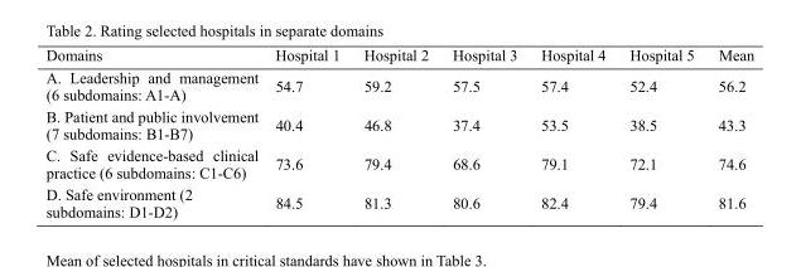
<table><thead><tr><td>Domains</td><td>Hospital 1</td><td>Hospital 2</td><td>Hospital 3</td><td>Hospital 4</td><td>Hospital 5</td><td>Mean</td></tr></thead><tbody><tr><td>A. Leadership and management (6 subdomains: A1-A)</td><td>54.7</td><td>59.2</td><td>57.5</td><td>57.4</td><td>52.4</td><td>56.2</td></tr><tr><td>B. Patient and public involvement (7 subdomains: B1-B7)</td><td>40.4</td><td>46.8</td><td>37.4</td><td>53.5</td><td>38.5</td><td>43.3</td></tr><tr><td>C. Safe evidence-based clinical practice (6 subdomains: C1-C6)</td><td>73.6</td><td>79.4</td><td>68.6</td><td>79.1</td><td>72.1</td><td>74.6</td></tr><tr><td>D. Safe environment (2 subdomains: D1-D2)</td><td>84.5</td><td>81.3</td><td>80.6</td><td>82.4</td><td>79.4</td><td>81.6</td></tr></tbody></table>